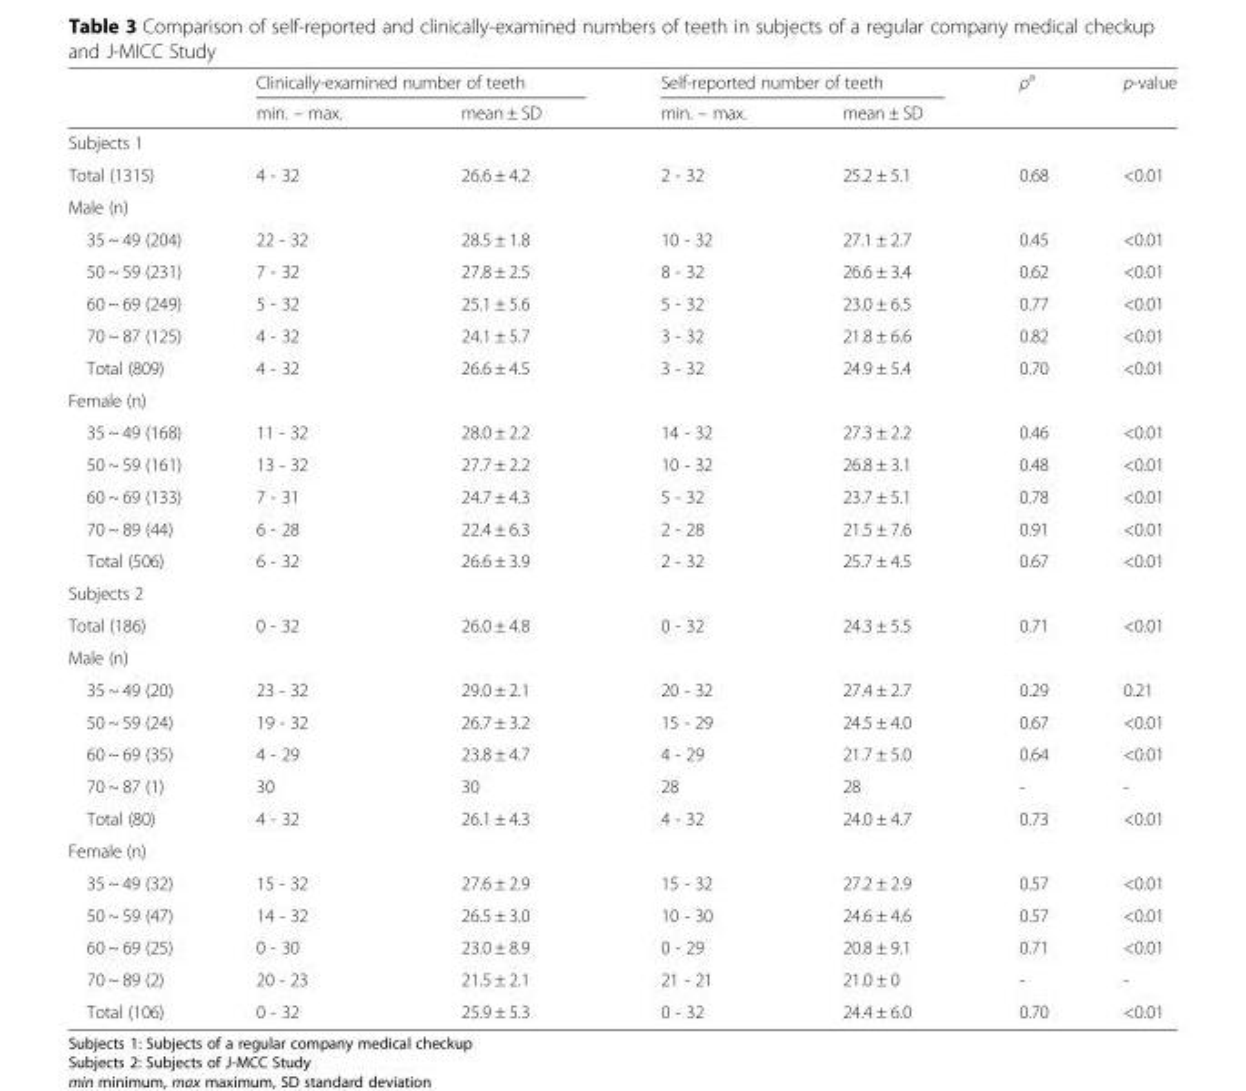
<table><thead><tr><td rowspan="2"></td><td colspan="2">Clinically-examined number of teeth</td><td colspan="2">Self-reported number of teeth</td><td rowspan="2">ρ<sup>a</sup></td><td rowspan="2">p-value</td></tr><tr><td>min. – max.</td><td>mean ± SD</td><td>min. – max.</td><td>mean ± SD</td></tr></thead><tbody><tr><td colspan="7">Subjects 1</td></tr><tr><td>Total (1315)</td><td>4 - 32</td><td>26.6 ± 4.2</td><td>2 - 32</td><td>25.2 ± 5.1</td><td>0.68</td><td>&lt;0.01</td></tr><tr><td colspan="7">Male (n)</td></tr><tr><td>35 ~ 49 (204)</td><td>22 - 32</td><td>28.5 ± 1.8</td><td>10 - 32</td><td>27.1 ± 2.7</td><td>0.45</td><td>&lt;0.01</td></tr><tr><td>50 ~ 59 (231)</td><td>7 - 32</td><td>27.8 ± 2.5</td><td>8 - 32</td><td>26.6 ± 3.4</td><td>0.62</td><td>&lt;0.01</td></tr><tr><td>60 ~ 69 (249)</td><td>5 - 32</td><td>25.1 ± 5.6</td><td>5 - 32</td><td>23.0 ± 6.5</td><td>0.77</td><td>&lt;0.01</td></tr><tr><td>70 ~ 87 (125)</td><td>4 - 32</td><td>24.1 ± 5.7</td><td>3 - 32</td><td>21.8 ± 6.6</td><td>0.82</td><td>&lt;0.01</td></tr><tr><td>Total (809)</td><td>4 - 32</td><td>26.6 ± 4.5</td><td>3 - 32</td><td>24.9 ± 5.4</td><td>0.70</td><td>&lt;0.01</td></tr><tr><td colspan="7">Female (n)</td></tr><tr><td>35 ~ 49 (168)</td><td>11 - 32</td><td>28.0 ± 2.2</td><td>14 - 32</td><td>27.3 ± 2.2</td><td>0.46</td><td>&lt;0.01</td></tr><tr><td>50 ~ 59 (161)</td><td>13 - 32</td><td>27.7 ± 2.2</td><td>10 - 32</td><td>26.8 ± 3.1</td><td>0.48</td><td>&lt;0.01</td></tr><tr><td>60 ~ 69 (133)</td><td>7 - 31</td><td>24.7 ± 4.3</td><td>5 - 32</td><td>23.7 ± 5.1</td><td>0.78</td><td>&lt;0.01</td></tr><tr><td>70 ~ 89 (44)</td><td>6 - 28</td><td>22.4 ± 6.3</td><td>2 - 28</td><td>21.5 ± 7.6</td><td>0.91</td><td>&lt;0.01</td></tr><tr><td>Total (506)</td><td>6 - 32</td><td>26.6 ± 3.9</td><td>2 - 32</td><td>25.7 ± 4.5</td><td>0.67</td><td>&lt;0.01</td></tr><tr><td colspan="7">Subjects 2</td></tr><tr><td>Total (186)</td><td>0 - 32</td><td>26.0 ± 4.8</td><td>0 - 32</td><td>24.3 ± 5.5</td><td>0.71</td><td>&lt;0.01</td></tr><tr><td colspan="7">Male (n)</td></tr><tr><td>35 ~ 49 (20)</td><td>23 - 32</td><td>29.0 ± 2.1</td><td>20 - 32</td><td>27.4 ± 2.7</td><td>0.29</td><td>0.21</td></tr><tr><td>50 ~ 59 (24)</td><td>19 - 32</td><td>26.7 ± 3.2</td><td>15 - 29</td><td>24.5 ± 4.0</td><td>0.67</td><td>&lt;0.01</td></tr><tr><td>60 ~ 69 (35)</td><td>4 - 29</td><td>23.8 ± 4.7</td><td>4 - 29</td><td>21.7 ± 5.0</td><td>0.64</td><td>&lt;0.01</td></tr><tr><td>70 ~ 87 (1)</td><td>30</td><td>30</td><td>28</td><td>28</td><td>-</td><td>-</td></tr><tr><td>Total (80)</td><td>4 - 32</td><td>26.1 ± 4.3</td><td>4 - 32</td><td>24.0 ± 4.7</td><td>0.73</td><td>&lt;0.01</td></tr><tr><td colspan="7">Female (n)</td></tr><tr><td>35 ~ 49 (32)</td><td>15 - 32</td><td>27.6 ± 2.9</td><td>15 - 32</td><td>27.2 ± 2.9</td><td>0.57</td><td>&lt;0.01</td></tr><tr><td>50 ~ 59 (47)</td><td>14 - 32</td><td>26.5 ± 3.0</td><td>10 - 30</td><td>24.6 ± 4.6</td><td>0.57</td><td>&lt;0.01</td></tr><tr><td>60 ~ 69 (25)</td><td>0 - 30</td><td>23.0 ± 8.9</td><td>0 - 29</td><td>20.8 ± 9.1</td><td>0.71</td><td>&lt;0.01</td></tr><tr><td>70 ~ 89 (2)</td><td>20 - 23</td><td>21.5 ± 2.1</td><td>21 - 21</td><td>21.0 ± 0</td><td>-</td><td>-</td></tr><tr><td>Total (106)</td><td>0 - 32</td><td>25.9 ± 5.3</td><td>0 - 32</td><td>24.4 ± 6.0</td><td>0.70</td><td>&lt;0.01</td></tr></tbody></table>